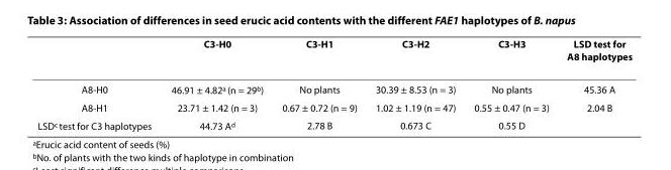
<table><thead><tr><td></td><td>C3-H0</td><td>C3-H1</td><td>C3-H2</td><td>C3-H3</td><td>LSD test for A8 haplotypes</td></tr></thead><tbody><tr><td>A8-H0</td><td>46.91 ± 4.82<sup>a</sup> (n = 29<sup>b</sup>)</td><td>No plants</td><td>30.39 ± 8.53 (n = 3)</td><td>No plants</td><td>45.36 A</td></tr><tr><td>A8-H1</td><td>23.71 ± 1.42 (n = 3)</td><td>0.67 ± 0.72 (n = 9)</td><td>1.02 ± 1.19 (n = 47)</td><td>0.55 ± 0.47 (n = 3)</td><td>2.04 B</td></tr><tr><td>LSD<sup>c</sup> test for C3 haplotypes</td><td>44.73 A<sup>d</sup></td><td>2.78 B</td><td>0.673 C</td><td>0.55 D</td><td></td></tr></tbody></table>